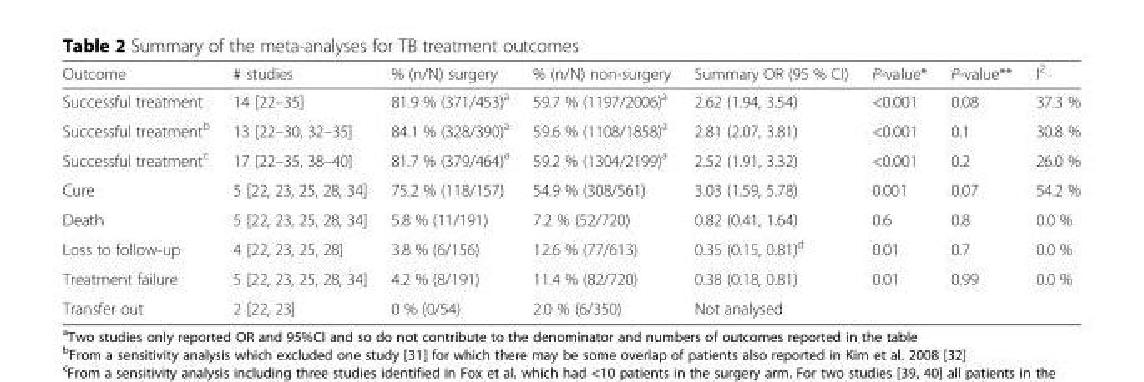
<table><thead><tr><td>Outcome</td><td># studies</td><td>% (n/N) surgery</td><td>% (n/N) non-surgery</td><td>Summary OR (95 % CI)</td><td>P-value*</td><td>P-value**</td><td>I<sup>2</sup></td></tr></thead><tbody><tr><td>Successful treatment</td><td>14 [22–35]</td><td>81.9 % (371/453)<sup>a</sup></td><td>59.7 % (1197/2006)<sup>a</sup></td><td>2.62 (1.94, 3.54)</td><td>&lt;0.001</td><td>0.08</td><td>37.3 %</td></tr><tr><td>Successful treatment<sup>b</sup></td><td>13 [22–30, 32–35]</td><td>84.1 % (328/390)<sup>a</sup></td><td>59.6 % (1108/1858)<sup>a</sup></td><td>2.81 (2.07, 3.81)</td><td>&lt;0.001</td><td>0.1</td><td>30.8 %</td></tr><tr><td>Successful treatment<sup>c</sup></td><td>17 [22–35, 38–40]</td><td>81.7 % (379/464)<sup>a</sup></td><td>59.2 % (1304/2199)<sup>a</sup></td><td>2.52 (1.91, 3.32)</td><td>&lt;0.001</td><td>0.2</td><td>26.0 %</td></tr><tr><td>Cure</td><td>5 [22, 23, 25, 28, 34]</td><td>75.2 % (118/157)</td><td>54.9 % (308/561)</td><td>3.03 (1.59, 5.78)</td><td>0.001</td><td>0.07</td><td>54.2 %</td></tr><tr><td>Death</td><td>5 [22, 23, 25, 28, 34]</td><td>5.8 % (11/191)</td><td>7.2 % (52/720)</td><td>0.82 (0.41, 1.64)</td><td>0.6</td><td>0.8</td><td>0.0 %</td></tr><tr><td>Loss to follow-up</td><td>4 [22, 23, 25, 28]</td><td>3.8 % (6/156)</td><td>12.6 % (77/613)</td><td>0.35 (0.15, 0.81)<sup>d</sup></td><td>0.01</td><td>0.7</td><td>0.0 %</td></tr><tr><td>Treatment failure</td><td>5 [22, 23, 25, 28, 34]</td><td>4.2 % (8/191)</td><td>11.4 % (82/720)</td><td>0.38 (0.18, 0.81)</td><td>0.01</td><td>0.99</td><td>0.0 %</td></tr><tr><td>Transfer out</td><td>2 [22, 23]</td><td>0 % (0/54)</td><td>2.0 % (6/350)</td><td colspan="4">Not analysed</td></tr></tbody></table>